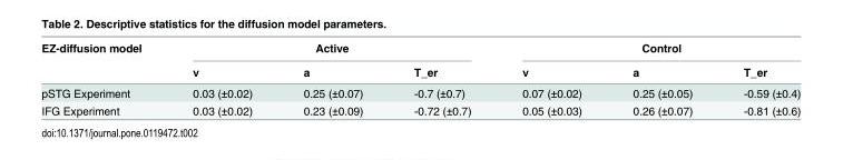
<table><thead><tr><td rowspan="2">EZ-diffusion model</td><td colspan="3">Active</td><td colspan="3">Control</td></tr><tr><td>v</td><td>a</td><td>T_er</td><td>v</td><td>a</td><td>T_er</td></tr></thead><tbody><tr><td>pSTG Experiment</td><td>0.03 (±0.02)</td><td>0.25 (±0.07)</td><td>-0.7 (±0.7)</td><td>0.07 (±0.02)</td><td>0.25 (±0.05)</td><td>-0.59 (±0.4)</td></tr><tr><td>IFG Experiment</td><td>0.03 (±0.02)</td><td>0.23 (±0.09)</td><td>-0.72 (±0.7)</td><td>0.05 (±0.03)</td><td>0.26 (±0.07)</td><td>-0.81 (±0.6)</td></tr></tbody></table>